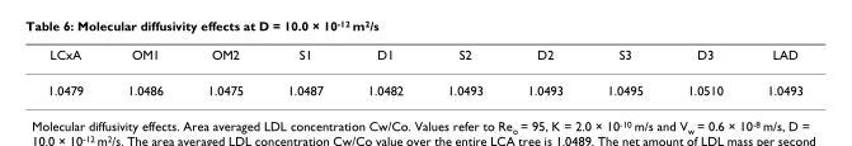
<table><thead><tr><td>LCxA</td><td>OM1</td><td>OM2</td><td>S1</td><td>D1</td><td>S2</td><td>D2</td><td>S3</td><td>D3</td><td>LAD</td></tr></thead><tbody><tr><td>1.0479</td><td>1.0486</td><td>1.0475</td><td>1.0487</td><td>1.0482</td><td>1.0493</td><td>1.0493</td><td>1.0495</td><td>1.0510</td><td>1.0493</td></tr></tbody></table>